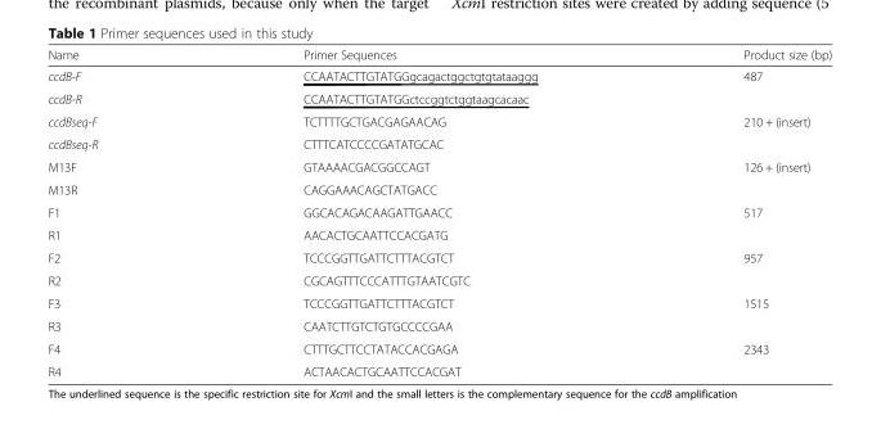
<table><thead><tr><td>Name</td><td>Primer Sequences</td><td>Product size (bp)</td></tr></thead><tbody><tr><td>ccdB-F</td><td>CCAATACTTGTATGGgcagactggctgtgtataaggg</td><td>487</td></tr><tr><td>ccdB-R</td><td>CCAATACTTGTATGGctccggtctggtaagcacaac</td><td></td></tr><tr><td>ccdBseq-F</td><td>TCTTTTGCTGACGAGAACAG</td><td>210 + (insert)</td></tr><tr><td>ccdBseq-R</td><td>CTTTCATCCCCGATATGCAC</td><td></td></tr><tr><td>M13F</td><td>GTAAAACGACGGCCAGT</td><td>126 + (insert)</td></tr><tr><td>M13R</td><td>CAGGAAACAGCTATGACC</td><td></td></tr><tr><td>F1</td><td>GGCACAGACAAGATTGAACC</td><td>517</td></tr><tr><td>R1</td><td>AACACTGCAATTCCACGATG</td><td></td></tr><tr><td>F2</td><td>TCCCGGTTGATTCTTTACGTCT</td><td>957</td></tr><tr><td>R2</td><td>CGCAGTTTCCCATTTGTAATCGTC</td><td></td></tr><tr><td>F3</td><td>TCCCGGTTGATTCTTTACGTCT</td><td>1515</td></tr><tr><td>R3</td><td>CAATCTTGTCTGTGCCCCGAA</td><td></td></tr><tr><td>F4</td><td>CTTTGCTTCCTATACCACGAGA</td><td>2343</td></tr><tr><td>R4</td><td>ACTAACACTGCAATTCCACGAT</td><td></td></tr></tbody></table>